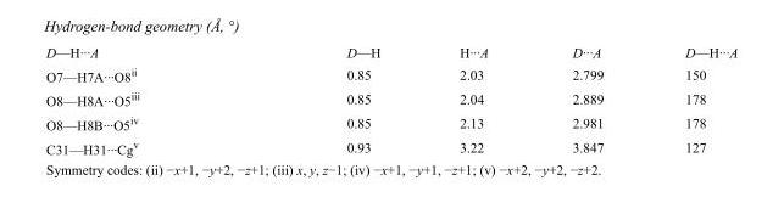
<table><tbody><tr><td>D—H···A</td><td>D—H</td><td>H···A</td><td>D···A</td><td>D—H···A</td></tr><tr><td>O7—H7A···O8<sup>ii</sup></td><td>0.85</td><td>2.03</td><td>2.799</td><td>150</td></tr><tr><td>O8—H8A···O5<sup>iii</sup></td><td>0.85</td><td>2.04</td><td>2.889</td><td>178</td></tr><tr><td>O8—H8B···O5<sup>iv</sup></td><td>0.85</td><td>2.13</td><td>2.981</td><td>178</td></tr><tr><td>C31—H31···Cg<sup>v</sup></td><td>0.93</td><td>3.22</td><td>3.847</td><td>127</td></tr></tbody></table>